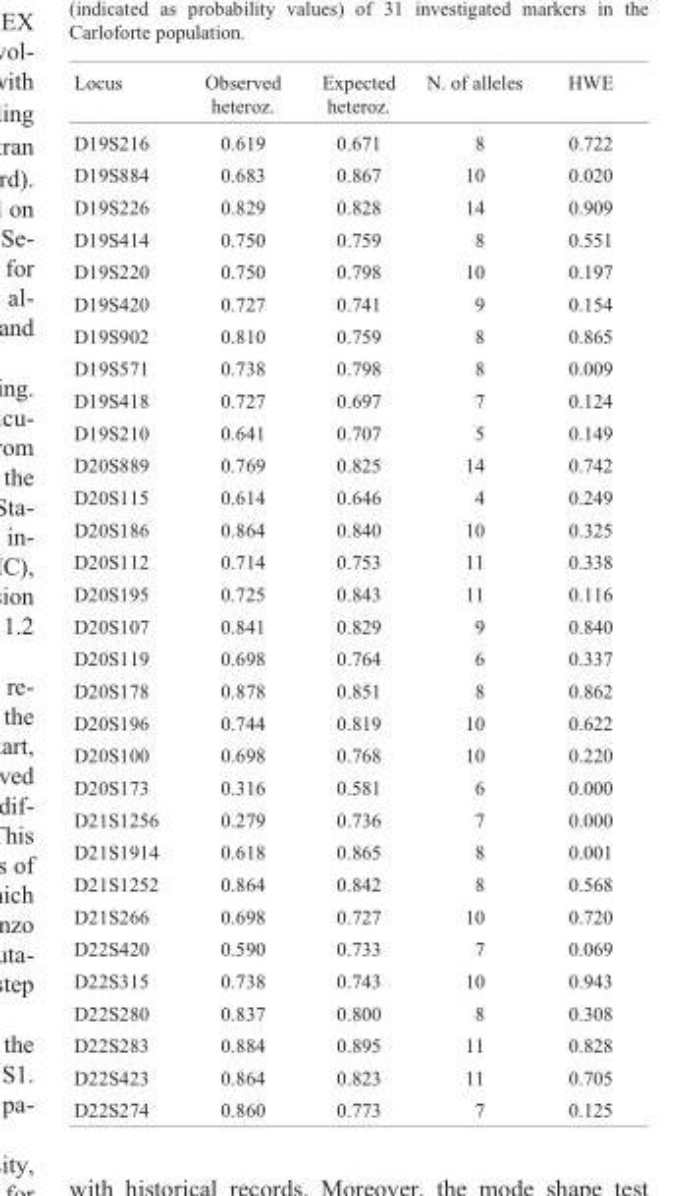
<table><thead><tr><td>Locus</td><td>Observed heteroz.</td><td>Expected heteroz.</td><td>N. of alleles</td><td>HWE</td></tr></thead><tbody><tr><td>D19S216</td><td>0.619</td><td>0.671</td><td>8</td><td>0.722</td></tr><tr><td>D19S884</td><td>0.683</td><td>0.867</td><td>10</td><td>0.020</td></tr><tr><td>D19S226</td><td>0.829</td><td>0.828</td><td>14</td><td>0.909</td></tr><tr><td>D19S414</td><td>0.750</td><td>0.759</td><td>8</td><td>0.551</td></tr><tr><td>D19S220</td><td>0.750</td><td>0.798</td><td>10</td><td>0.197</td></tr><tr><td>D19S420</td><td>0.727</td><td>0.741</td><td>9</td><td>0.154</td></tr><tr><td>D19S902</td><td>0.810</td><td>0.759</td><td>8</td><td>0.865</td></tr><tr><td>D19S571</td><td>0.738</td><td>0.798</td><td>8</td><td>0.009</td></tr><tr><td>D19S418</td><td>0.727</td><td>0.697</td><td>7</td><td>0.124</td></tr><tr><td>D19S210</td><td>0.641</td><td>0.707</td><td>5</td><td>0.149</td></tr><tr><td>D20S889</td><td>0.769</td><td>0.825</td><td>14</td><td>0.742</td></tr><tr><td>D20S115</td><td>0.614</td><td>0.646</td><td>4</td><td>0.249</td></tr><tr><td>D20S186</td><td>0.864</td><td>0.840</td><td>10</td><td>0.325</td></tr><tr><td>D20S112</td><td>0.714</td><td>0.753</td><td>11</td><td>0.338</td></tr><tr><td>D20S195</td><td>0.725</td><td>0.843</td><td>11</td><td>0.116</td></tr><tr><td>D20S107</td><td>0.841</td><td>0.829</td><td>9</td><td>0.840</td></tr><tr><td>D20S119</td><td>0.698</td><td>0.764</td><td>6</td><td>0.337</td></tr><tr><td>D20S178</td><td>0.878</td><td>0.851</td><td>8</td><td>0.862</td></tr><tr><td>D20S196</td><td>0.744</td><td>0.819</td><td>10</td><td>0.622</td></tr><tr><td>D20S100</td><td>0.698</td><td>0.768</td><td>10</td><td>0.220</td></tr><tr><td>D20S173</td><td>0.316</td><td>0.581</td><td>6</td><td>0.000</td></tr><tr><td>D21S1256</td><td>0.279</td><td>0.736</td><td>7</td><td>0.000</td></tr><tr><td>D21S1914</td><td>0.618</td><td>0.865</td><td>8</td><td>0.001</td></tr><tr><td>D21S1252</td><td>0.864</td><td>0.842</td><td>8</td><td>0.568</td></tr><tr><td>D21S266</td><td>0.698</td><td>0.727</td><td>10</td><td>0.720</td></tr><tr><td>D22S420</td><td>0.590</td><td>0.733</td><td>7</td><td>0.069</td></tr><tr><td>D22S315</td><td>0.738</td><td>0.743</td><td>10</td><td>0.943</td></tr><tr><td>D22S280</td><td>0.837</td><td>0.800</td><td>8</td><td>0.308</td></tr><tr><td>D22S283</td><td>0.884</td><td>0.895</td><td>11</td><td>0.828</td></tr><tr><td>D22S423</td><td>0.864</td><td>0.823</td><td>11</td><td>0.705</td></tr><tr><td>D22S274</td><td>0.860</td><td>0.773</td><td>7</td><td>0.125</td></tr></tbody></table>